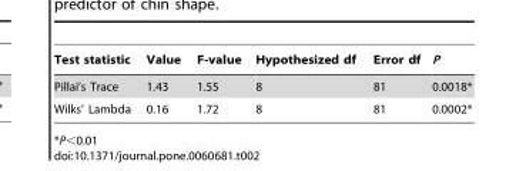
<table><thead><tr><td>Test statistic</td><td>Value</td><td>F-value</td><td>Hypothesized df</td><td>Error df</td><td>P</td></tr></thead><tbody><tr><td>Pillai’s Trace</td><td>1.43</td><td>1.55</td><td>8</td><td>81</td><td>0.0018*</td></tr><tr><td>Wilks’ Lambda</td><td>0.16</td><td>1.72</td><td>8</td><td>81</td><td>0.0002*</td></tr></tbody></table>